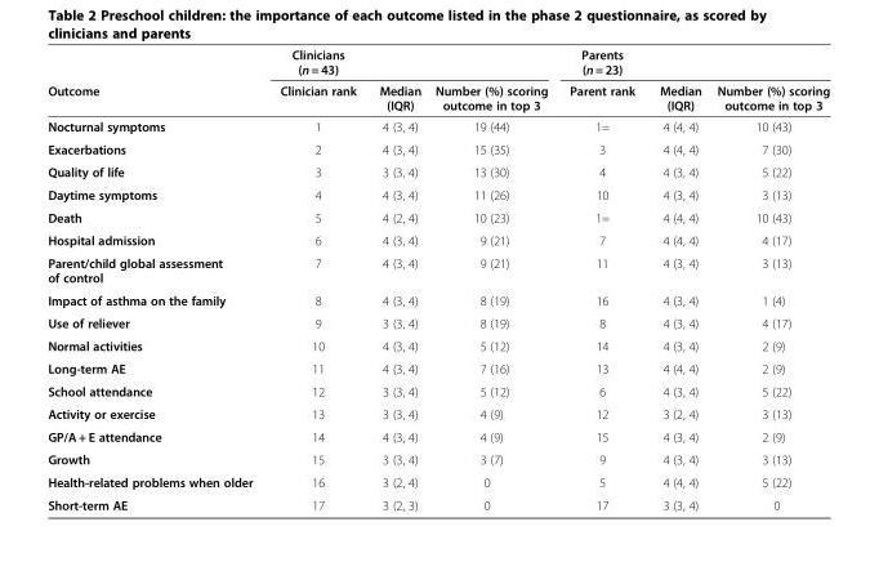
<table><thead><tr><td></td><td>Clinicians (n = 43)</td><td></td><td></td><td>Parents (n = 23)</td><td></td><td></td></tr></thead><tbody><tr><td>Outcome</td><td>Clinician rank</td><td>Median (IQR)</td><td>Number (%) scoring outcome in top 3</td><td>Parent rank</td><td>Median (IQR)</td><td>Number (%) scoring outcome in top 3</td></tr><tr><td>Nocturnal symptoms</td><td>1</td><td>4 (3, 4)</td><td>19 (44)</td><td>1=</td><td>4 (4, 4)</td><td>10 (43)</td></tr><tr><td>Exacerbations</td><td>2</td><td>4 (3, 4)</td><td>15 (35)</td><td>3</td><td>4 (4, 4)</td><td>7 (30)</td></tr><tr><td>Quality of life</td><td>3</td><td>3 (3, 4)</td><td>13 (30)</td><td>4</td><td>4 (3, 4)</td><td>5 (22)</td></tr><tr><td>Daytime symptoms</td><td>4</td><td>4 (3, 4)</td><td>11 (26)</td><td>10</td><td>4 (3, 4)</td><td>3 (13)</td></tr><tr><td>Death</td><td>5</td><td>4 (2, 4)</td><td>10 (23)</td><td>1=</td><td>4 (4, 4)</td><td>10 (43)</td></tr><tr><td>Hospital admission</td><td>6</td><td>4 (3, 4)</td><td>9 (21)</td><td>7</td><td>4 (4, 4)</td><td>4 (17)</td></tr><tr><td>Parent/child global assessment of control</td><td>7</td><td>4 (3, 4)</td><td>9 (21)</td><td>11</td><td>4 (3, 4)</td><td>3 (13)</td></tr><tr><td>Impact of asthma on the family</td><td>8</td><td>4 (3, 4)</td><td>8 (19)</td><td>16</td><td>4 (3, 4)</td><td>1 (4)</td></tr><tr><td>Use of reliever</td><td>9</td><td>3 (3, 4)</td><td>8 (19)</td><td>8</td><td>4 (3, 4)</td><td>4 (17)</td></tr><tr><td>Normal activities</td><td>10</td><td>4 (3, 4)</td><td>5 (12)</td><td>14</td><td>4 (3, 4)</td><td>2 (9)</td></tr><tr><td>Long-term AE</td><td>11</td><td>4 (3, 4)</td><td>7 (16)</td><td>13</td><td>4 (4, 4)</td><td>2 (9)</td></tr><tr><td>School attendance</td><td>12</td><td>3 (3, 4)</td><td>5 (12)</td><td>6</td><td>4 (3, 4)</td><td>5 (22)</td></tr><tr><td>Activity or exercise</td><td>13</td><td>3 (3, 4)</td><td>4 (9)</td><td>12</td><td>3 (2, 4)</td><td>3 (13)</td></tr><tr><td>GP/A + E attendance</td><td>14</td><td>4 (3, 4)</td><td>4 (9)</td><td>15</td><td>4 (3, 4)</td><td>2 (9)</td></tr><tr><td>Growth</td><td>15</td><td>3 (3, 4)</td><td>3 (7)</td><td>9</td><td>4 (3, 4)</td><td>3 (13)</td></tr><tr><td>Health-related problems when older</td><td>16</td><td>3 (2, 4)</td><td>0</td><td>5</td><td>4 (4, 4)</td><td>5 (22)</td></tr><tr><td>Short-term AE</td><td>17</td><td>3 (2, 3)</td><td>0</td><td>17</td><td>3 (3, 4)</td><td>0</td></tr></tbody></table>